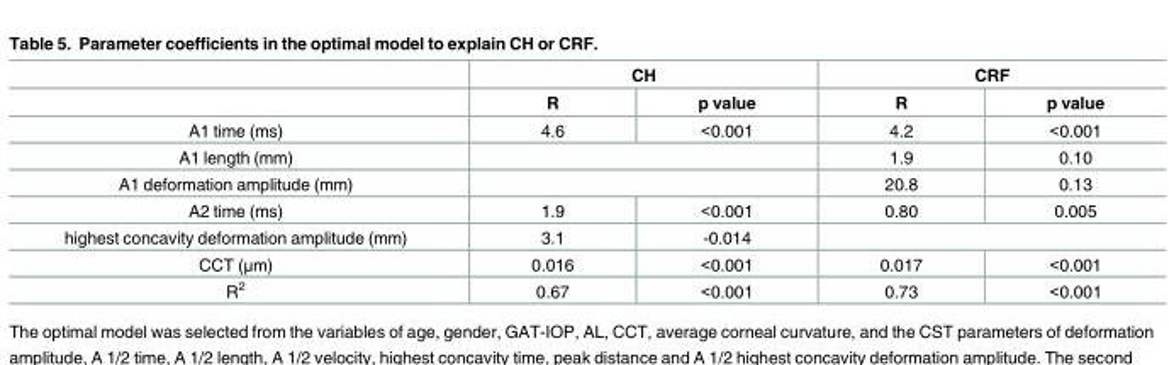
<table><thead><tr><td rowspan="2"></td><td colspan="2">CH</td><td colspan="2">CRF</td></tr><tr><td>R</td><td>p value</td><td>R</td><td>p value</td></tr></thead><tbody><tr><td>A1 time (ms)</td><td>4.6</td><td>&lt;0.001</td><td>4.2</td><td>&lt;0.001</td></tr><tr><td>A1 length (mm)</td><td colspan="2"></td><td>1.9</td><td>0.10</td></tr><tr><td>A1 deformation amplitude (mm)</td><td colspan="2"></td><td>20.8</td><td>0.13</td></tr><tr><td>A2 time (ms)</td><td>1.9</td><td>&lt;0.001</td><td>0.80</td><td>0.005</td></tr><tr><td>highest concavity deformation amplitude (mm)</td><td>3.1</td><td>-0.014</td><td colspan="2"></td></tr><tr><td>CCT (μm)</td><td>0.016</td><td>&lt;0.001</td><td>0.017</td><td>&lt;0.001</td></tr><tr><td>R<sup>2</sup></td><td>0.67</td><td>&lt;0.001</td><td>0.73</td><td>&lt;0.001</td></tr></tbody></table>